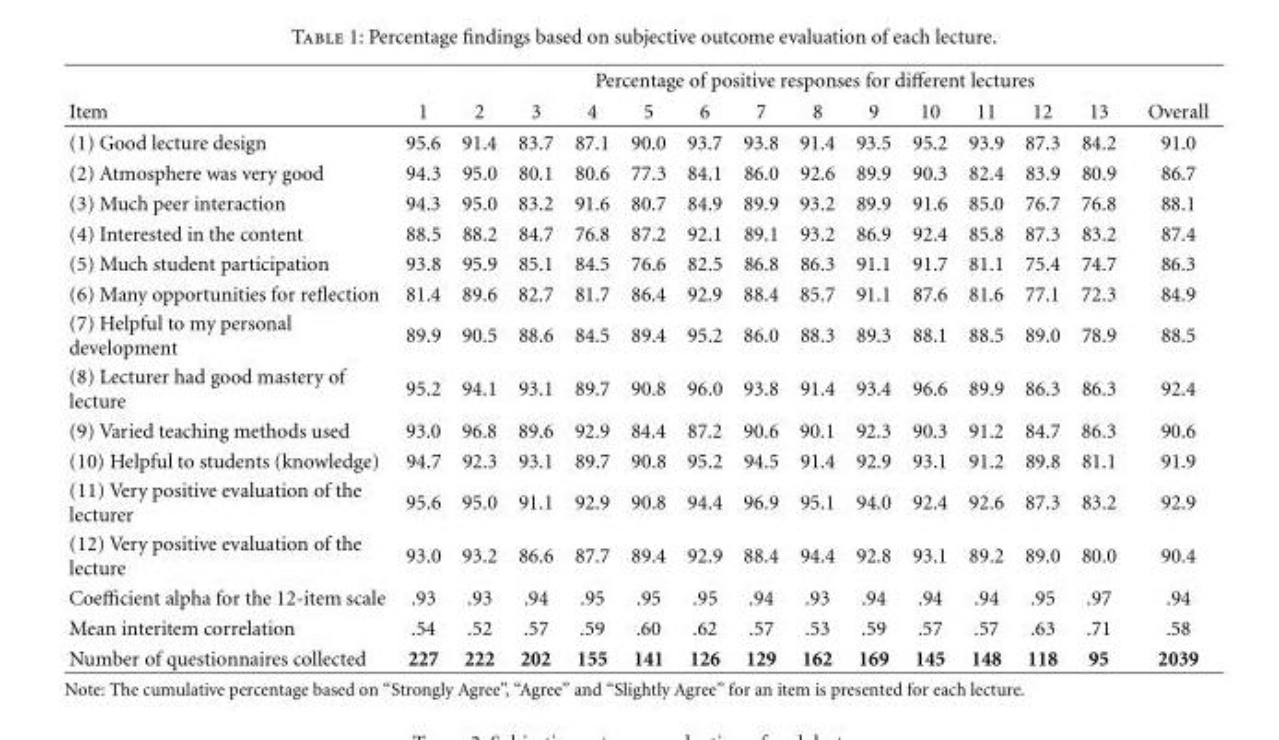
<table><thead><tr><td rowspan="2">Item</td><td colspan="14">Percentage of positive responses for different lectures</td></tr><tr><td>1</td><td>2</td><td>3</td><td>4</td><td>5</td><td>6</td><td>7</td><td>8</td><td>9</td><td>10</td><td>11</td><td>12</td><td>13</td><td>Overall</td></tr></thead><tbody><tr><td>(1) Good lecture design</td><td>95.6</td><td>91.4</td><td>83.7</td><td>87.1</td><td>90.0</td><td>93.7</td><td>93.8</td><td>91.4</td><td>93.5</td><td>95.2</td><td>93.9</td><td>87.3</td><td>84.2</td><td>91.0</td></tr><tr><td>(2) Atmosphere was very good</td><td>94.3</td><td>95.0</td><td>80.1</td><td>80.6</td><td>77.3</td><td>84.1</td><td>86.0</td><td>92.6</td><td>89.9</td><td>90.3</td><td>82.4</td><td>83.9</td><td>80.9</td><td>86.7</td></tr><tr><td>(3) Much peer interaction</td><td>94.3</td><td>95.0</td><td>83.2</td><td>91.6</td><td>80.7</td><td>84.9</td><td>89.9</td><td>93.2</td><td>89.9</td><td>91.6</td><td>85.0</td><td>76.7</td><td>76.8</td><td>88.1</td></tr><tr><td>(4) Interested in the content</td><td>88.5</td><td>88.2</td><td>84.7</td><td>76.8</td><td>87.2</td><td>92.1</td><td>89.1</td><td>93.2</td><td>86.9</td><td>92.4</td><td>85.8</td><td>87.3</td><td>83.2</td><td>87.4</td></tr><tr><td>(5) Much student participation</td><td>93.8</td><td>95.9</td><td>85.1</td><td>84.5</td><td>76.6</td><td>82.5</td><td>86.8</td><td>86.3</td><td>91.1</td><td>91.7</td><td>81.1</td><td>75.4</td><td>74.7</td><td>86.3</td></tr><tr><td>(6) Many opportunities for reflection</td><td>81.4</td><td>89.6</td><td>82.7</td><td>81.7</td><td>86.4</td><td>92.9</td><td>88.4</td><td>85.7</td><td>91.1</td><td>87.6</td><td>81.6</td><td>77.1</td><td>72.3</td><td>84.9</td></tr><tr><td>(7) Helpful to my personal development</td><td>89.9</td><td>90.5</td><td>88.6</td><td>84.5</td><td>89.4</td><td>95.2</td><td>86.0</td><td>88.3</td><td>89.3</td><td>88.1</td><td>88.5</td><td>89.0</td><td>78.9</td><td>88.5</td></tr><tr><td>(8) Lecturer had good mastery of lecture</td><td>95.2</td><td>94.1</td><td>93.1</td><td>89.7</td><td>90.8</td><td>96.0</td><td>93.8</td><td>91.4</td><td>93.4</td><td>96.6</td><td>89.9</td><td>86.3</td><td>86.3</td><td>92.4</td></tr><tr><td>(9) Varied teaching methods used</td><td>93.0</td><td>96.8</td><td>89.6</td><td>92.9</td><td>84.4</td><td>87.2</td><td>90.6</td><td>90.1</td><td>92.3</td><td>90.3</td><td>91.2</td><td>84.7</td><td>86.3</td><td>90.6</td></tr><tr><td>(10) Helpful to students (knowledge)</td><td>94.7</td><td>92.3</td><td>93.1</td><td>89.7</td><td>90.8</td><td>95.2</td><td>94.5</td><td>91.4</td><td>92.9</td><td>93.1</td><td>91.2</td><td>89.8</td><td>81.1</td><td>91.9</td></tr><tr><td>(11) Very positive evaluation of the lecturer</td><td>95.6</td><td>95.0</td><td>91.1</td><td>92.9</td><td>90.8</td><td>94.4</td><td>96.9</td><td>95.1</td><td>94.0</td><td>92.4</td><td>92.6</td><td>87.3</td><td>83.2</td><td>92.9</td></tr><tr><td>(12) Very positive evaluation of the lecture</td><td>93.0</td><td>93.2</td><td>86.6</td><td>87.7</td><td>89.4</td><td>92.9</td><td>88.4</td><td>94.4</td><td>92.8</td><td>93.1</td><td>89.2</td><td>89.0</td><td>80.0</td><td>90.4</td></tr><tr><td>Coefficient alpha for the 12-item scale</td><td>.93</td><td>.93</td><td>.94</td><td>.95</td><td>.95</td><td>.95</td><td>.94</td><td>.93</td><td>.94</td><td>.94</td><td>.94</td><td>.95</td><td>.97</td><td>.94</td></tr><tr><td>Mean interitem correlation</td><td>.54</td><td>.52</td><td>.57</td><td>.59</td><td>.60</td><td>.62</td><td>.57</td><td>.53</td><td>.59</td><td>.57</td><td>.57</td><td>.63</td><td>.71</td><td>.58</td></tr><tr><td>Number of questionnaires collected</td><td>227</td><td>222</td><td>202</td><td>155</td><td>141</td><td>126</td><td>129</td><td>162</td><td>169</td><td>145</td><td>148</td><td>118</td><td>95</td><td>2039</td></tr></tbody></table>